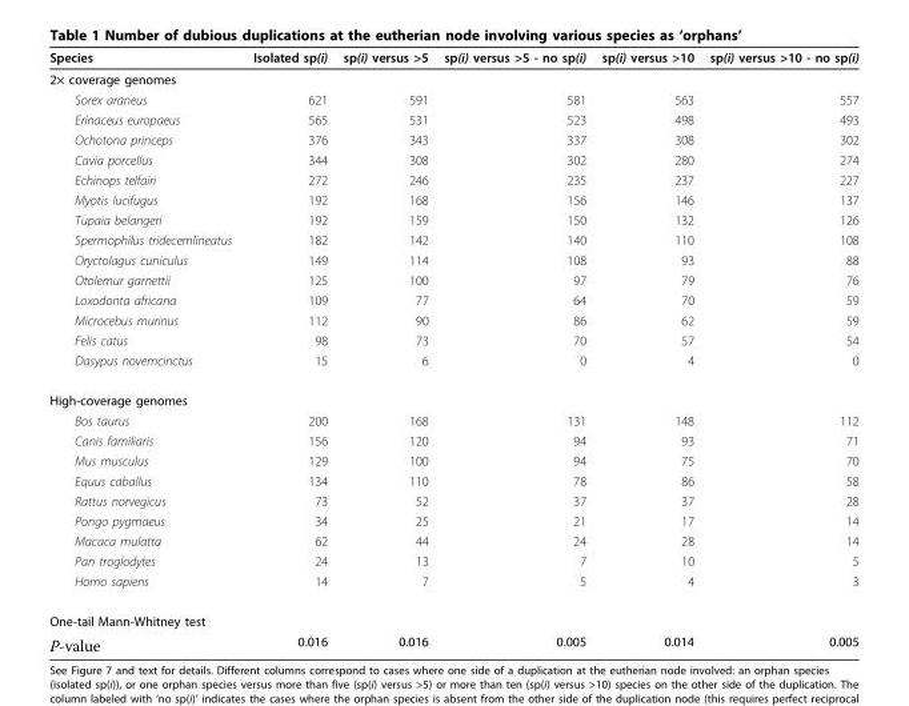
<table><thead><tr><td>Species</td><td>Isolated sp(i)</td><td>sp(i) versus &gt;5</td><td>sp(i) versus &gt;5 - no sp(i)</td><td>sp(i) versus &gt;10</td><td>sp(i) versus &gt;10 - no sp(i)</td></tr></thead><tbody><tr><td colspan="6">2× coverage genomes</td></tr><tr><td>Sorex araneus</td><td>621</td><td>591</td><td>581</td><td>563</td><td>557</td></tr><tr><td>Erinaceus europaeus</td><td>565</td><td>531</td><td>523</td><td>498</td><td>493</td></tr><tr><td>Ochotona princeps</td><td>376</td><td>343</td><td>337</td><td>308</td><td>302</td></tr><tr><td>Cavia porcellus</td><td>344</td><td>308</td><td>302</td><td>280</td><td>274</td></tr><tr><td>Echinops telfairi</td><td>272</td><td>246</td><td>235</td><td>237</td><td>227</td></tr><tr><td>Myotis lucifugus</td><td>192</td><td>168</td><td>156</td><td>146</td><td>137</td></tr><tr><td>Tupaia belangeri</td><td>192</td><td>159</td><td>150</td><td>132</td><td>126</td></tr><tr><td>Spermophilus tridecemlineatus</td><td>182</td><td>142</td><td>140</td><td>110</td><td>108</td></tr><tr><td>Oryctolagus cuniculus</td><td>149</td><td>114</td><td>108</td><td>93</td><td>88</td></tr><tr><td>Otolemur garnettii</td><td>125</td><td>100</td><td>97</td><td>79</td><td>76</td></tr><tr><td>Loxodonta africana</td><td>109</td><td>77</td><td>64</td><td>70</td><td>59</td></tr><tr><td>Microcebus murinus</td><td>112</td><td>90</td><td>86</td><td>62</td><td>59</td></tr><tr><td>Felis catus</td><td>98</td><td>73</td><td>70</td><td>57</td><td>54</td></tr><tr><td>Dasypus novemcinctus</td><td>15</td><td>6</td><td>0</td><td>4</td><td>0</td></tr><tr><td colspan="6">High-coverage genomes</td></tr><tr><td>Bos taurus</td><td>200</td><td>168</td><td>131</td><td>148</td><td>112</td></tr><tr><td>Canis familiaris</td><td>156</td><td>120</td><td>94</td><td>93</td><td>71</td></tr><tr><td>Mus musculus</td><td>129</td><td>100</td><td>94</td><td>75</td><td>70</td></tr><tr><td>Equus caballus</td><td>134</td><td>110</td><td>78</td><td>86</td><td>58</td></tr><tr><td>Rattus norvegicus</td><td>73</td><td>52</td><td>37</td><td>37</td><td>28</td></tr><tr><td>Pongo pygmaeus</td><td>34</td><td>25</td><td>21</td><td>17</td><td>14</td></tr><tr><td>Macaca mulatta</td><td>62</td><td>44</td><td>24</td><td>28</td><td>14</td></tr><tr><td>Pan troglodytes</td><td>24</td><td>13</td><td>7</td><td>10</td><td>5</td></tr><tr><td>Homo sapiens</td><td>14</td><td>7</td><td>5</td><td>4</td><td>3</td></tr><tr><td colspan="6">One-tail Mann-Whitney test</td></tr><tr><td>P-value</td><td>0.016</td><td>0.016</td><td>0.005</td><td>0.014</td><td>0.005</td></tr></tbody></table>